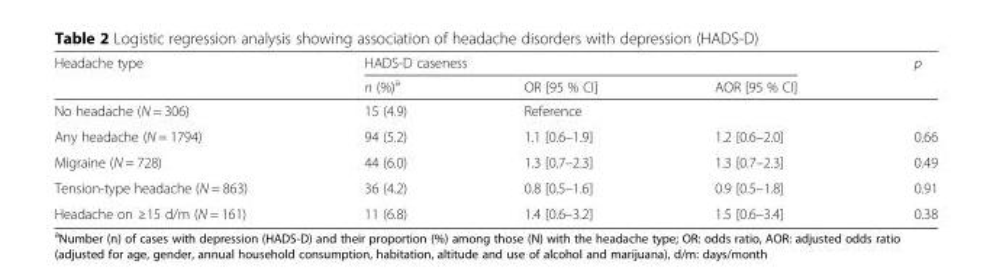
<table><thead><tr><td rowspan="2">Headache type</td><td colspan="3">HADS-D caseness</td><td rowspan="2">p</td></tr><tr><td>n (%)<sup>a</sup></td><td>OR [95 % CI]</td><td>AOR [95 % CI]</td></tr></thead><tbody><tr><td>No headache (N = 306)</td><td>15 (4.9)</td><td colspan="3">Reference</td></tr><tr><td>Any headache (N = 1794)</td><td>94 (5.2)</td><td>1.1 [0.6–1.9]</td><td>1.2 [0.6–2.0]</td><td>0.66</td></tr><tr><td>Migraine (N = 728)</td><td>44 (6.0)</td><td>1.3 [0.7–2.3]</td><td>1.3 [0.7–2.3]</td><td>0.49</td></tr><tr><td>Tension-type headache (N = 863)</td><td>36 (4.2)</td><td>0.8 [0.5–1.6]</td><td>0.9 [0.5–1.8]</td><td>0.91</td></tr><tr><td>Headache on ≥15 d/m (N = 161)</td><td>11 (6.8)</td><td>1.4 [0.6–3.2]</td><td>1.5 [0.6–3.4]</td><td>0.38</td></tr></tbody></table>